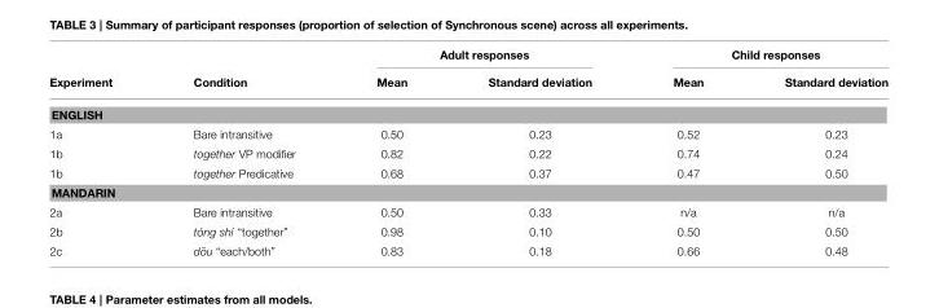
<table><thead><tr><td rowspan="2">Experiment</td><td rowspan="2">Condition</td><td colspan="2">Adult responses</td><td colspan="2">Child responses</td></tr><tr><td>Mean</td><td>Standard deviation</td><td>Mean</td><td>Standard deviation</td></tr></thead><tbody><tr><td colspan="6">ENGLISH</td></tr><tr><td>1a</td><td>Bare intransitive</td><td>0.50</td><td>0.23</td><td>0.52</td><td>0.23</td></tr><tr><td>1b</td><td>together VP modifier</td><td>0.82</td><td>0.22</td><td>0.74</td><td>0.24</td></tr><tr><td>1b</td><td>together Predicative</td><td>0.68</td><td>0.37</td><td>0.47</td><td>0.50</td></tr><tr><td colspan="6">MANDARIN</td></tr><tr><td>2a</td><td>Bare intransitive</td><td>0.50</td><td>0.33</td><td>n/a</td><td>n/a</td></tr><tr><td>2b</td><td>tóng shí “together”</td><td>0.98</td><td>0.10</td><td>0.50</td><td>0.50</td></tr><tr><td>2c</td><td>d¯ou “each/both”</td><td>0.83</td><td>0.18</td><td>0.66</td><td>0.48</td></tr></tbody></table>